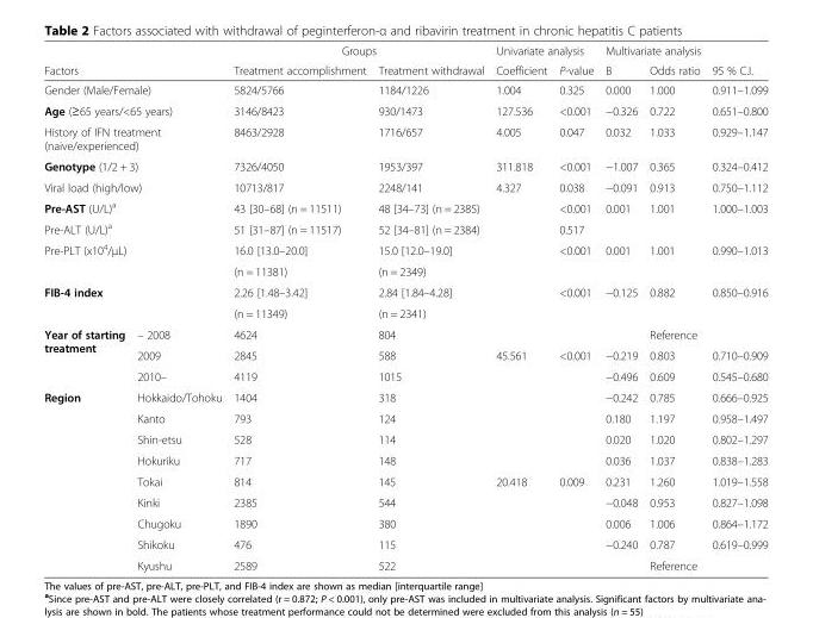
<table><thead><tr><td></td><td></td><td colspan="2">Groups</td><td colspan="2">Univariate analysis</td><td colspan="3">Multivariate analysis</td></tr><tr><td colspan="2">Factors</td><td>Treatment accomplishment</td><td>Treatment withdrawal</td><td>Coefficient</td><td>P-value</td><td>B</td><td>Odds ratio</td><td>95 % C.I.</td></tr></thead><tbody><tr><td colspan="2">Gender (Male/Female)</td><td>5824/5766</td><td>1184/1226</td><td>1.004</td><td>0.325</td><td>0.000</td><td>1.000</td><td>0.911–1.099</td></tr><tr><td colspan="2">Age (≥65 years/&lt;65 years)</td><td>3146/8423</td><td>930/1473</td><td>127.536</td><td>&lt;0.001</td><td>−0.326</td><td>0.722</td><td>0.651–0.800</td></tr><tr><td colspan="2">History of IFN treatment (naive/experienced)</td><td>8463/2928</td><td>1716/657</td><td>4.005</td><td>0.047</td><td>0.032</td><td>1.033</td><td>0.929–1.147</td></tr><tr><td colspan="2">Genotype (1/2 + 3)</td><td>7326/4050</td><td>1953/397</td><td>311.818</td><td>&lt;0.001</td><td>−1.007</td><td>0.365</td><td>0.324–0.412</td></tr><tr><td colspan="2">Viral load (high/low)</td><td>10713/817</td><td>2248/141</td><td>4.327</td><td>0.038</td><td>−0.091</td><td>0.913</td><td>0.750–1.112</td></tr><tr><td colspan="2">Pre-AST (U/L)<sup>a</sup></td><td>43 [30–68] (n = 11511)</td><td>48 [34–73] (n = 2385)</td><td></td><td>&lt;0.001</td><td>0.001</td><td>1.001</td><td>1.000–1.003</td></tr><tr><td colspan="2">Pre-ALT (U/L)<sup>a</sup></td><td>51 [31–87] (n = 11517)</td><td>52 [34–81] (n = 2384)</td><td></td><td>0.517</td><td></td><td></td><td></td></tr><tr><td rowspan="2" colspan="2">Pre-PLT (x10<sup>4</sup>/μL)</td><td>16.0 [13.0–20.0]</td><td>15.0 [12.0–19.0]</td><td rowspan="2"></td><td rowspan="2">&lt;0.001</td><td rowspan="2">0.001</td><td rowspan="2">1.001</td><td rowspan="2">0.990–1.013</td></tr><tr><td>(n = 11381)</td><td>(n = 2349)</td></tr><tr><td rowspan="2" colspan="2">FIB-4 index</td><td>2.26 [1.48–3.42]</td><td>2.84 [1.84–4.28]</td><td rowspan="2"></td><td rowspan="2">&lt;0.001</td><td rowspan="2">−0.125</td><td rowspan="2">0.882</td><td rowspan="2">0.850–0.916</td></tr><tr><td>(n = 11349)</td><td>(n = 2341)</td></tr><tr><td rowspan="3">Year of starting treatment</td><td>– 2008</td><td>4624</td><td>804</td><td></td><td></td><td></td><td>Reference</td><td></td></tr><tr><td>2009</td><td>2845</td><td>588</td><td>45.561</td><td>&lt;0.001</td><td>−0.219</td><td>0.803</td><td>0.710–0.909</td></tr><tr><td>2010–</td><td>4119</td><td>1015</td><td></td><td></td><td>−0.496</td><td>0.609</td><td>0.545–0.680</td></tr><tr><td rowspan="9">Region</td><td>Hokkaido/Tohoku</td><td>1404</td><td>318</td><td></td><td></td><td>−0.242</td><td>0.785</td><td>0.666–0.925</td></tr><tr><td>Kanto</td><td>793</td><td>124</td><td></td><td></td><td>0.180</td><td>1.197</td><td>0.958–1.497</td></tr><tr><td>Shin-etsu</td><td>528</td><td>114</td><td></td><td></td><td>0.020</td><td>1.020</td><td>0.802–1.297</td></tr><tr><td>Hokuriku</td><td>717</td><td>148</td><td></td><td></td><td>0.036</td><td>1.037</td><td>0.838–1.283</td></tr><tr><td>Tokai</td><td>814</td><td>145</td><td>20.418</td><td>0.009</td><td>0.231</td><td>1.260</td><td>1.019–1.558</td></tr><tr><td>Kinki</td><td>2385</td><td>544</td><td></td><td></td><td>−0.048</td><td>0.953</td><td>0.827–1.098</td></tr><tr><td>Chugoku</td><td>1890</td><td>380</td><td></td><td></td><td>0.006</td><td>1.006</td><td>0.864–1.172</td></tr><tr><td>Shikoku</td><td>476</td><td>115</td><td></td><td></td><td>−0.240</td><td>0.787</td><td>0.619–0.999</td></tr><tr><td>Kyushu</td><td>2589</td><td>522</td><td></td><td></td><td></td><td>Reference</td><td></td></tr></tbody></table>